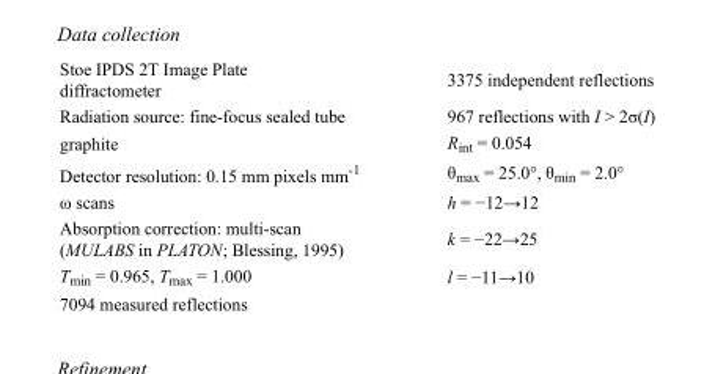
<table><tbody><tr><td>Stoe IPDS 2T Image Plate diffractometer</td><td>3375 independent reflections</td></tr><tr><td>Radiation source: fine-focus sealed tube</td><td>967 reflections with I &gt; 2σ(I)</td></tr><tr><td>graphite</td><td>R<sub>int</sub> = 0.054</td></tr><tr><td>Detector resolution: 0.15 mm pixels mm<sup>-1</sup></td><td>θ<sub>max</sub> = 25.0°, θ<sub>min</sub> = 2.0°</td></tr><tr><td>ω scans</td><td>h = −12→12</td></tr><tr><td>Absorption correction: multi-scan (MULABS in PLATON; Blessing, 1995)</td><td>k = −22→25</td></tr><tr><td>T<sub>min</sub> = 0.965, T<sub>max</sub> = 1.000</td><td>l = −11→10</td></tr><tr><td>7094 measured reflections</td><td></td></tr></tbody></table>